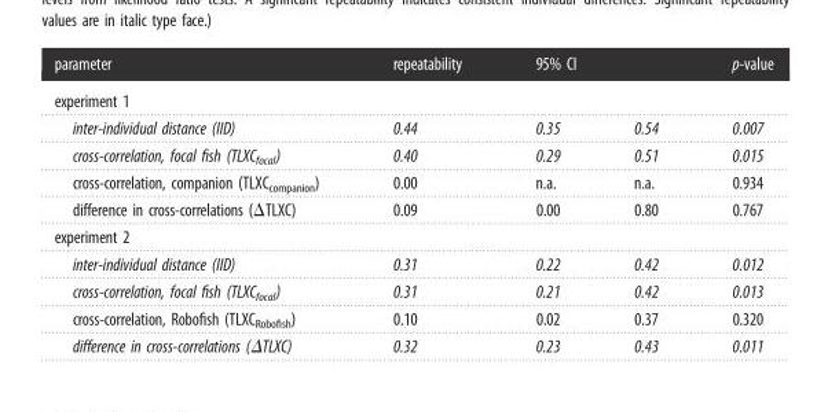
<table><thead><tr><td>parameter</td><td>repeatability</td><td>95% CI</td><td></td><td>p-value</td></tr></thead><tbody><tr><td colspan="5">experiment 1</td></tr><tr><td>inter-individual distance (IID)</td><td>0.44</td><td>0.35</td><td>0.54</td><td>0.007</td></tr><tr><td>cross-correlation, focal fish (TLXC<sub>focal</sub>)</td><td>0.40</td><td>0.29</td><td>0.51</td><td>0.015</td></tr><tr><td>cross-correlation, companion (TLXC<sub>companion</sub>)</td><td>0.00</td><td>n.a.</td><td>n.a.</td><td>0.934</td></tr><tr><td>difference in cross-correlations (ΔTLXC)</td><td>0.09</td><td>0.00</td><td>0.80</td><td>0.767</td></tr><tr><td colspan="5">experiment 2</td></tr><tr><td>inter-individual distance (IID)</td><td>0.31</td><td>0.22</td><td>0.42</td><td>0.012</td></tr><tr><td>cross-correlation, focal fish (TLXC<sub>focal</sub>)</td><td>0.31</td><td>0.21</td><td>0.42</td><td>0.013</td></tr><tr><td>cross-correlation, Robofish (TLXC<sub>Robofish</sub>)</td><td>0.10</td><td>0.02</td><td>0.37</td><td>0.320</td></tr><tr><td>difference in cross-correlations (ΔTLXC)</td><td>0.32</td><td>0.23</td><td>0.43</td><td>0.011</td></tr></tbody></table>